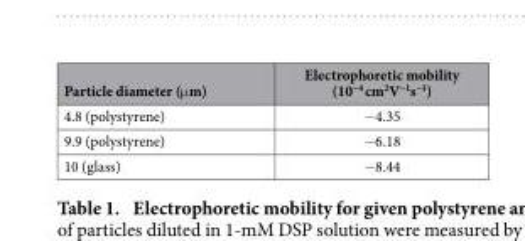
<table><thead><tr><td>Particle diameter (μ m)</td><td>Electrophoretic mobility (10<sup>−4</sup> cm<sup>2</sup>V<sup>−1</sup>s<sup>−1</sup>)</td></tr></thead><tbody><tr><td>4.8 (polystyrene)</td><td>−4.35</td></tr><tr><td>9.9 (polystyrene)</td><td>−6.18</td></tr><tr><td>10 (glass)</td><td>−8.44</td></tr></tbody></table>